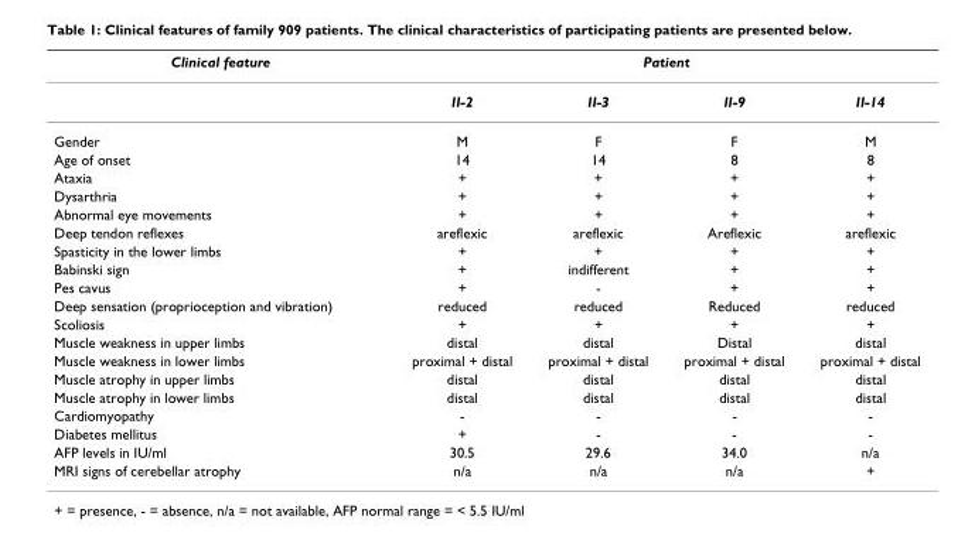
<table><thead><tr><td rowspan="2">Clinical feature</td><td colspan="4">Patient</td></tr><tr><td>II-2</td><td>II-3</td><td>II-9</td><td>II-14</td></tr></thead><tbody><tr><td>Gender</td><td>M</td><td>F</td><td>F</td><td>M</td></tr><tr><td>Age of onset</td><td>14</td><td>14</td><td>8</td><td>8</td></tr><tr><td>Ataxia</td><td>+</td><td>+</td><td>+</td><td>+</td></tr><tr><td>Dysarthria</td><td>+</td><td>+</td><td>+</td><td>+</td></tr><tr><td>Abnormal eye movements</td><td>+</td><td>+</td><td>+</td><td>+</td></tr><tr><td>Deep tendon reflexes</td><td>areflexic</td><td>areflexic</td><td>Areflexic</td><td>areflexic</td></tr><tr><td>Spasticity in the lower limbs</td><td>+</td><td>+</td><td>+</td><td>+</td></tr><tr><td>Babinski sign</td><td>+</td><td>indifferent</td><td>+</td><td>+</td></tr><tr><td>Pes cavus</td><td>+</td><td>-</td><td>+</td><td>+</td></tr><tr><td>Deep sensation (proprioception and vibration)</td><td>reduced</td><td>reduced</td><td>Reduced</td><td>reduced</td></tr><tr><td>Scoliosis</td><td>+</td><td>+</td><td>+</td><td>+</td></tr><tr><td>Muscle weakness in upper limbs</td><td>distal</td><td>distal</td><td>Distal</td><td>distal</td></tr><tr><td>Muscle weakness in lower limbs</td><td>proximal + distal</td><td>proximal + distal</td><td>proximal + distal</td><td>proximal + distal</td></tr><tr><td>Muscle atrophy in upper limbs</td><td>distal</td><td>distal</td><td>distal</td><td>distal</td></tr><tr><td>Muscle atrophy in lower limbs</td><td>distal</td><td>distal</td><td>distal</td><td>distal</td></tr><tr><td>Cardiomyopathy</td><td>-</td><td>-</td><td>-</td><td>-</td></tr><tr><td>Diabetes mellitus</td><td>+</td><td>-</td><td>-</td><td>-</td></tr><tr><td>AFP levels in IU/ml</td><td>30.5</td><td>29.6</td><td>34.0</td><td>n/a</td></tr><tr><td>MRI signs of cerebellar atrophy</td><td>n/a</td><td>n/a</td><td>n/a</td><td>+</td></tr></tbody></table>